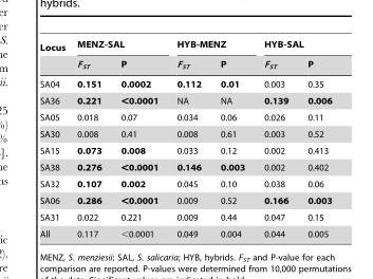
<table><thead><tr><td rowspan="2">Locus</td><td colspan="2">MENZ-SAL</td><td colspan="2">HYB-MENZ</td><td colspan="2">HYB-SAL</td></tr><tr><td>F<sub>ST</sub></td><td>P</td><td>F<sub>ST</sub></td><td>P</td><td>F<sub>ST</sub></td><td>P</td></tr></thead><tbody><tr><td>SA04</td><td>0.151</td><td>0.0002</td><td>0.112</td><td>0.01</td><td>0.003</td><td>0.35</td></tr><tr><td>SA36</td><td>0.221</td><td>&lt;0.0001</td><td>NA</td><td>NA</td><td>0.139</td><td>0.006</td></tr><tr><td>SA05</td><td>0.018</td><td>0.07</td><td>0.034</td><td>0.06</td><td>0.026</td><td>0.11</td></tr><tr><td>SA30</td><td>0.008</td><td>0.41</td><td>0.008</td><td>0.61</td><td>0.003</td><td>0.52</td></tr><tr><td>SA15</td><td>0.073</td><td>0.008</td><td>0.033</td><td>0.12</td><td>0.002</td><td>0.413</td></tr><tr><td>SA38</td><td>0.276</td><td>&lt;0.0001</td><td>0.146</td><td>0.003</td><td>0.002</td><td>0.402</td></tr><tr><td>SA32</td><td>0.107</td><td>0.002</td><td>0.045</td><td>0.10</td><td>0.038</td><td>0.06</td></tr><tr><td>SA06</td><td>0.286</td><td>&lt;0.0001</td><td>0.009</td><td>0.52</td><td>0.166</td><td>0.003</td></tr><tr><td>SA31</td><td>0.022</td><td>0.221</td><td>0.009</td><td>0.44</td><td>0.047</td><td>0.15</td></tr><tr><td>All</td><td>0.117</td><td>&lt;0.0001</td><td>0.049</td><td>0.004</td><td>0.044</td><td>0.005</td></tr></tbody></table>